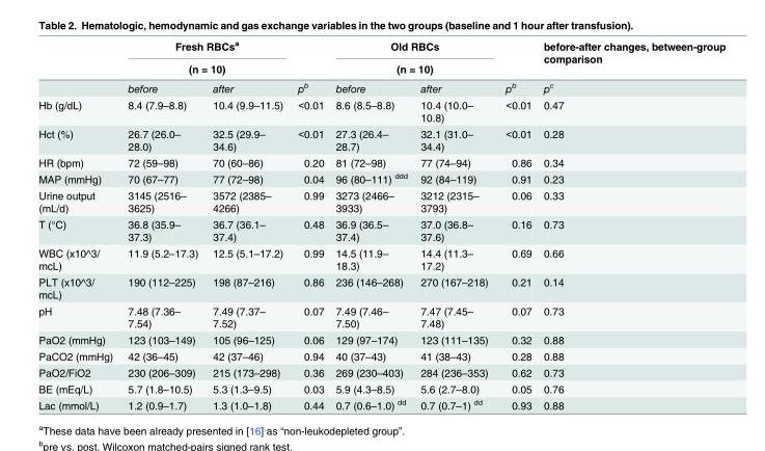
<table><thead><tr><td rowspan="3"></td><td rowspan="2" colspan="2">Fresh RBCs<sup>a</sup> (n = 10)</td><td rowspan="3">p<sup>b</sup></td><td rowspan="2" colspan="2">Old RBCs (n = 10)</td><td rowspan="3">p<sup>b</sup></td><td rowspan="3">before-after changes, between-group comparison p<sup>c</sup></td></tr><tr></tr><tr><td>before</td><td>after</td><td>before</td><td>after</td></tr></thead><tbody><tr><td>Hb (g/dL)</td><td>8.4 (7.9–8.8)</td><td>10.4 (9.9–11.5)</td><td>&lt;0.01</td><td>8.6 (8.5–8.8)</td><td>10.4 (10.0– 10.8)</td><td>&lt;0.01</td><td>0.47</td></tr><tr><td>Hct (%)</td><td>26.7 (26.0– 28.0)</td><td>32.5 (29.9– 34.6)</td><td>&lt;0.01</td><td>27.3 (26.4– 28.7)</td><td>32.1 (31.0– 34.4)</td><td>&lt;0.01</td><td>0.28</td></tr><tr><td>HR (bpm)</td><td>72 (59–98)</td><td>70 (60–86)</td><td>0.20</td><td>81 (72–98)</td><td>77 (74–94)</td><td>0.86</td><td>0.34</td></tr><tr><td>MAP (mmHg)</td><td>70 (67–77)</td><td>77 (72–98)</td><td>0.04</td><td>96 (80–111) <sup>ddd</sup></td><td>92 (84–119)</td><td>0.91</td><td>0.23</td></tr><tr><td>Urine output (mL/d)</td><td>3145 (2516– 3625)</td><td>3572 (2385– 4266)</td><td>0.99</td><td>3273 (2466– 3933)</td><td>3212 (2315– 3793)</td><td>0.06</td><td>0.33</td></tr><tr><td>T (°C)</td><td>36.8 (35.9– 37.3)</td><td>36.7 (36.1– 37.4)</td><td>0.48</td><td>36.9 (36.5– 37.4)</td><td>37.0 (36.8– 37.6)</td><td>0.16</td><td>0.73</td></tr><tr><td>WBC (x10^3/ mcL)</td><td>11.9 (5.2–17.3)</td><td>12.5 (5.1–17.2)</td><td>0.99</td><td>14.5 (11.9– 18.3)</td><td>14.4 (11.3– 17.2)</td><td>0.69</td><td>0.66</td></tr><tr><td>PLT (x10^3/ mcL)</td><td>190 (112–225)</td><td>198 (87–216)</td><td>0.86</td><td>236 (146–268)</td><td>270 (167–218)</td><td>0.21</td><td>0.14</td></tr><tr><td>pH</td><td>7.48 (7.36– 7.54)</td><td>7.49 (7.37– 7.52)</td><td>0.07</td><td>7.49 (7.46– 7.50)</td><td>7.47 (7.45– 7.48)</td><td>0.07</td><td>0.73</td></tr><tr><td>PaO2 (mmHg)</td><td>123 (103–149)</td><td>105 (96–125)</td><td>0.06</td><td>129 (97–174)</td><td>123 (111–135)</td><td>0.32</td><td>0.88</td></tr><tr><td>PaCO2 (mmHg)</td><td>42 (36–45)</td><td>42 (37–46)</td><td>0.94</td><td>40 (37–43)</td><td>41 (38–43)</td><td>0.28</td><td>0.88</td></tr><tr><td>PaO2/FiO2</td><td>230 (206–309)</td><td>215 (173–298)</td><td>0.36</td><td>269 (230–403)</td><td>284 (236–353)</td><td>0.62</td><td>0.73</td></tr><tr><td>BE (mEq/L)</td><td>5.7 (1.8–10.5)</td><td>5.3 (1.3–9.5)</td><td>0.03</td><td>5.9 (4.3–8.5)</td><td>5.6 (2.7–8.0)</td><td>0.05</td><td>0.76</td></tr><tr><td>Lac (mmol/L)</td><td>1.2 (0.9–1.7)</td><td>1.3 (1.0–1.8)</td><td>0.44</td><td>0.7 (0.6–1.0) <sup>dd</sup></td><td>0.7 (0.7–1) <sup>dd</sup></td><td>0.93</td><td>0.88</td></tr></tbody></table>